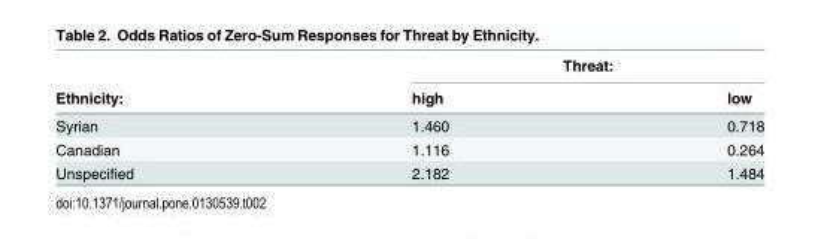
<table><thead><tr><td rowspan="2">Ethnicity:</td><td colspan="2">Threat:</td></tr><tr><td>high</td><td>low</td></tr></thead><tbody><tr><td>Syrian</td><td>1.460</td><td>0.718</td></tr><tr><td>Canadian</td><td>1.116</td><td>0.264</td></tr><tr><td>Unspecified</td><td>2.182</td><td>1.484</td></tr></tbody></table>